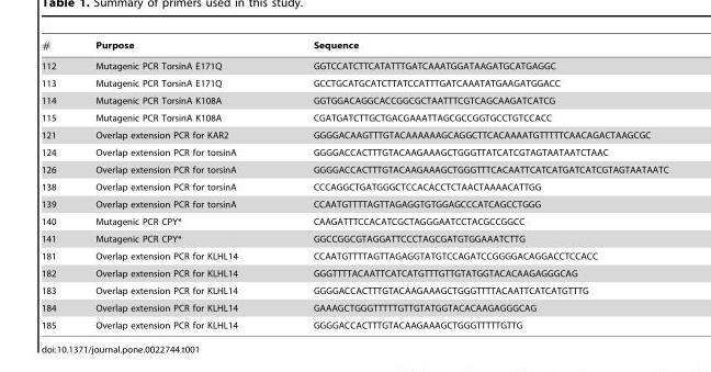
<table><thead><tr><td>#</td><td>Purpose</td><td>Sequence</td></tr></thead><tbody><tr><td>112</td><td>Mutagenic PCR TorsinA E171Q</td><td>GGTCCATCTTCATATTTGATCAAATGGATAAGATGCATGAGGC</td></tr><tr><td>113</td><td>Mutagenic PCR TorsinA E171Q</td><td>GCCTGCATGCATCTTATCCATTTGATCAAATATGAAGATGGACC</td></tr><tr><td>114</td><td>Mutagenic PCR TorsinA K108A</td><td>GGTGGACAGGCACCGGCGCTAATTTCGTCAGCAAGATCATCG</td></tr><tr><td>115</td><td>Mutagenic PCR TorsinA K108A</td><td>CGATGATCTTGCTGACGAAATTAGCGCCGGTGCCTGTCCACC</td></tr><tr><td>121</td><td>Overlap extension PCR for KAR2</td><td>GGGGACAAGTTTGTACAAAAAAGCAGGCTTCACAAAATGTTTTTCAACAGACTAAGCGC</td></tr><tr><td>124</td><td>Overlap extension PCR for torsinA</td><td>GGGGACCACTTTGTACAAGAAAGCTGGGTTATCATCGTAGTAATAATCTAAC</td></tr><tr><td>126</td><td>Overlap extension PCR for torsinA</td><td>GGGGACCACTTTGTACAAGAAAGCTGGGTTTCACAATTCATCATGATCATCGTAGTAATAATC</td></tr><tr><td>138</td><td>Overlap extension PCR for torsinA</td><td>CCCAGGCTGATGGGCTCCACACCTCTAACTAAAACATTGG</td></tr><tr><td>139</td><td>Overlap extension PCR for torsinA</td><td>CCAATGTTTTAGTTAGAGGTGTGGAGCCCATCAGCCTGGG</td></tr><tr><td>140</td><td>Mutagenic PCR CPY*</td><td>CAAGATTTCCACATCGCTAGGGAATCCTACGCCGGCC</td></tr><tr><td>141</td><td>Mutagenic PCR CPY*</td><td>GGCCGGCGTAGGATTCCCTAGCGATGTGGAAATCTTG</td></tr><tr><td>181</td><td>Overlap extension PCR for KLHL14</td><td>CCAATGTTTTAGTTAGAGGTATGTCCAGATCCGGGGACAGGACCTCCACC</td></tr><tr><td>182</td><td>Overlap extension PCR for KLHL14</td><td>GGGTTTTACAATTCATCATGTTTGTTGTATGGTACACAAGAGGGCAG</td></tr><tr><td>183</td><td>Overlap extension PCR for KLHL14</td><td>GGGGACCACTTTGTACAAGAAAGCTGGGTTTTACAATTCATCATGTTTG</td></tr><tr><td>184</td><td>Overlap extension PCR for KLHL14</td><td>GAAAGCTGGGTTTTTGTTGTATGGTACACAAGAGGGCAG</td></tr><tr><td>185</td><td>Overlap extension PCR for KLHL14</td><td>GGGGACCACTTTGTACAAGAAAGCTGGGTTTTTGTTG</td></tr></tbody></table>